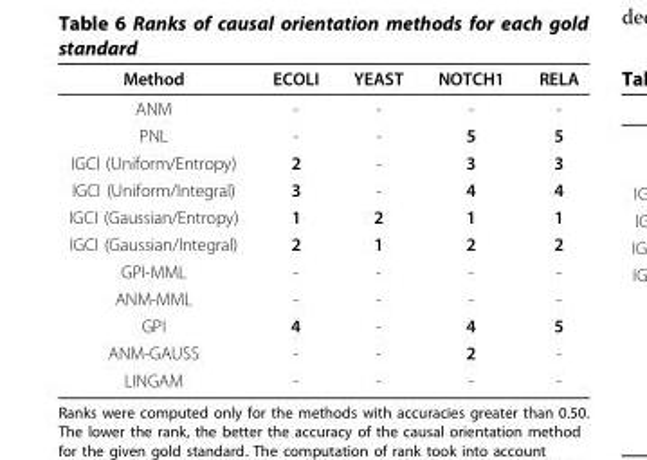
<table><thead><tr><td>Method</td><td>ECOLI</td><td>YEAST</td><td>NOTCH1</td><td>RELA</td></tr></thead><tbody><tr><td>ANM</td><td>-</td><td>-</td><td>-</td><td>-</td></tr><tr><td>PNL</td><td>-</td><td>-</td><td>5</td><td>5</td></tr><tr><td>IGCI (Uniform/Entropy)</td><td>2</td><td>-</td><td>3</td><td>3</td></tr><tr><td>IGCI (Uniform/Integral)</td><td>3</td><td>-</td><td>4</td><td>4</td></tr><tr><td>IGCI (Gaussian/Entropy)</td><td>1</td><td>2</td><td>1</td><td>1</td></tr><tr><td>IGCI (Gaussian/Integral)</td><td>2</td><td>1</td><td>2</td><td>2</td></tr><tr><td>GPI-MML</td><td>-</td><td>-</td><td>-</td><td>-</td></tr><tr><td>ANM-MML</td><td>-</td><td>-</td><td>-</td><td>-</td></tr><tr><td>GPI</td><td>4</td><td>-</td><td>4</td><td>5</td></tr><tr><td>ANM-GAUSS</td><td>-</td><td>-</td><td>2</td><td>-</td></tr><tr><td>LINGAM</td><td>-</td><td>-</td><td>-</td><td>-</td></tr></tbody></table>